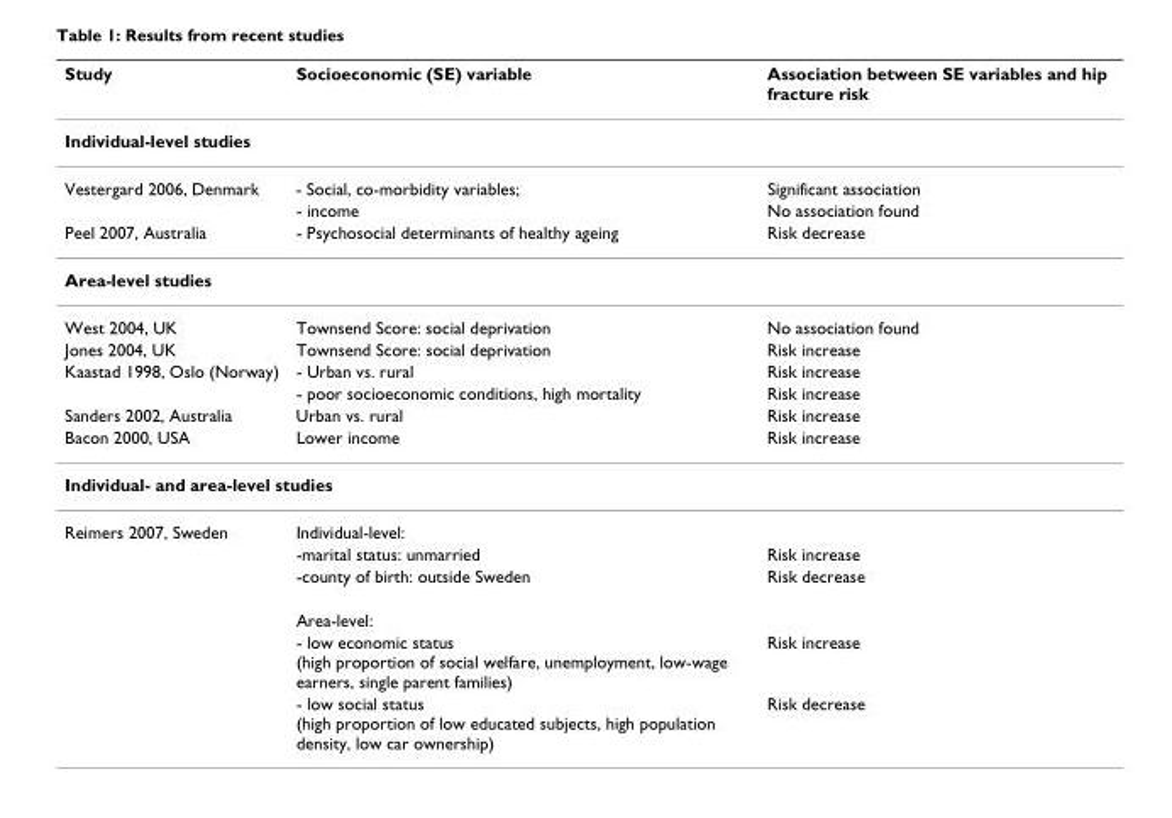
<table><thead><tr><td>Study</td><td>Socioeconomic (SE) variable</td><td>Association between SE variables and hip fracture risk</td></tr></thead><tbody><tr><td colspan="3">Individual-level studies</td></tr><tr><td rowspan="2">Vestergard 2006, Denmark</td><td>- Social, co-morbidity variables;</td><td>Significant association</td></tr><tr><td>- income</td><td>No association found</td></tr><tr><td>Peel 2007, Australia</td><td>- Psychosocial determinants of healthy ageing</td><td>Risk decrease</td></tr><tr><td colspan="3">Area-level studies</td></tr><tr><td>West 2004, UK</td><td>Townsend Score: social deprivation</td><td>No association found</td></tr><tr><td>Jones 2004, UK</td><td>Townsend Score: social deprivation</td><td>Risk increase</td></tr><tr><td rowspan="2">Kaastad 1998, Oslo (Norway)</td><td>- Urban vs. rural</td><td>Risk increase</td></tr><tr><td>- poor socioeconomic conditions, high mortality</td><td>Risk increase</td></tr><tr><td>Sanders 2002, Australia</td><td>Urban vs. rural</td><td>Risk increase</td></tr><tr><td>Bacon 2000, USA</td><td>Lower income</td><td>Risk increase</td></tr><tr><td colspan="3">Individual- and area-level studies</td></tr><tr><td rowspan="6">Reimers 2007, Sweden</td><td>Individual-level:</td><td></td></tr><tr><td>-marital status: unmarried</td><td>Risk increase</td></tr><tr><td>-county of birth: outside Sweden</td><td>Risk decrease</td></tr><tr><td>Area-level:</td><td></td></tr><tr><td>- low economic status (high proportion of social welfare, unemployment, low-wage earners, single parent families)</td><td>Risk increase</td></tr><tr><td>- low social status (high proportion of low educated subjects, high population density, low car ownership)</td><td>Risk decrease</td></tr></tbody></table>